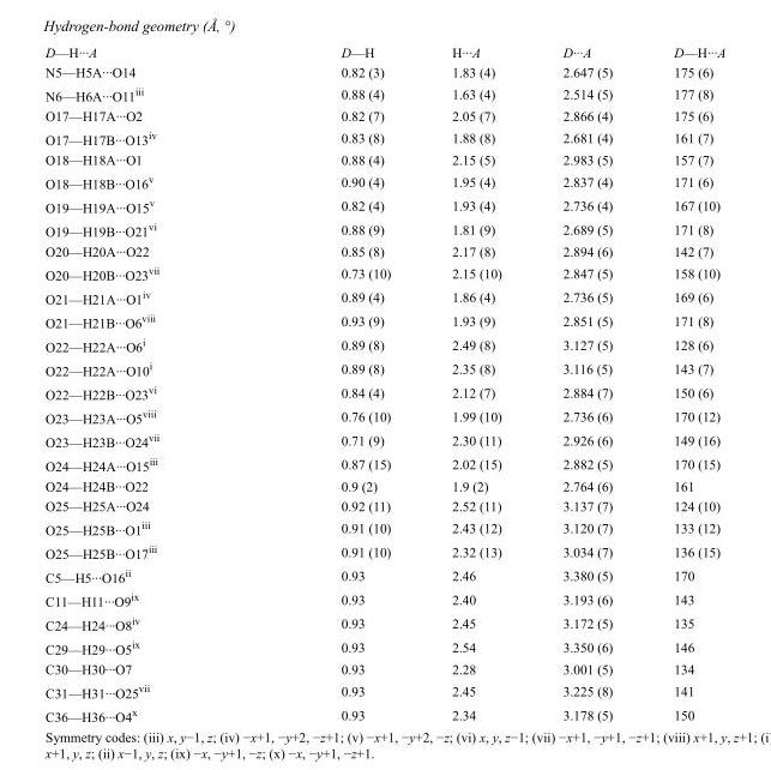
<table><tbody><tr><td>D—H···A</td><td>D—H</td><td>H···A</td><td>D···A</td><td>D—H···A</td></tr><tr><td>N5—H5A···O14</td><td>0.82 (3)</td><td>1.83 (4)</td><td>2.647 (5)</td><td>175 (6)</td></tr><tr><td>N6—H6A···O11<sup>iii</sup></td><td>0.88 (4)</td><td>1.63 (4)</td><td>2.514 (5)</td><td>177 (8)</td></tr><tr><td>O17—H17A···O2</td><td>0.82 (7)</td><td>2.05 (7)</td><td>2.866 (4)</td><td>175 (6)</td></tr><tr><td>O17—H17B···O13<sup>iv</sup></td><td>0.83 (8)</td><td>1.88 (8)</td><td>2.681 (4)</td><td>161 (7)</td></tr><tr><td>O18—H18A···O1</td><td>0.88 (4)</td><td>2.15 (5)</td><td>2.983 (5)</td><td>157 (7)</td></tr><tr><td>O18—H18B···O16<sup>v</sup></td><td>0.90 (4)</td><td>1.95 (4)</td><td>2.837 (4)</td><td>171 (6)</td></tr><tr><td>O19—H19A···O15<sup>v</sup></td><td>0.82 (4)</td><td>1.93 (4)</td><td>2.736 (4)</td><td>167 (10)</td></tr><tr><td>O19—H19B···O21<sup>vi</sup></td><td>0.88 (9)</td><td>1.81 (9)</td><td>2.689 (5)</td><td>171 (8)</td></tr><tr><td>O20—H20A···O22</td><td>0.85 (8)</td><td>2.17 (8)</td><td>2.894 (6)</td><td>142 (7)</td></tr><tr><td>O20—H20B···O23<sup>vii</sup></td><td>0.73 (10)</td><td>2.15 (10)</td><td>2.847 (5)</td><td>158 (10)</td></tr><tr><td>O21—H21A···O1<sup>iv</sup></td><td>0.89 (4)</td><td>1.86 (4)</td><td>2.736 (5)</td><td>169 (6)</td></tr><tr><td>O21—H21B···O6<sup>viii</sup></td><td>0.93 (9)</td><td>1.93 (9)</td><td>2.851 (5)</td><td>171 (8)</td></tr><tr><td>O22—H22A···O6<sup>i</sup></td><td>0.89 (8)</td><td>2.49 (8)</td><td>3.127 (5)</td><td>128 (6)</td></tr><tr><td>O22—H22A···O10<sup>i</sup></td><td>0.89 (8)</td><td>2.35 (8)</td><td>3.116 (5)</td><td>143 (7)</td></tr><tr><td>O22—H22B···O23<sup>vi</sup></td><td>0.84 (4)</td><td>2.12 (7)</td><td>2.884 (7)</td><td>150 (6)</td></tr><tr><td>O23—H23A···O5<sup>viii</sup></td><td>0.76 (10)</td><td>1.99 (10)</td><td>2.736 (6)</td><td>170 (12)</td></tr><tr><td>O23—H23B···O24<sup>vii</sup></td><td>0.71 (9)</td><td>2.30 (11)</td><td>2.926 (6)</td><td>149 (16)</td></tr><tr><td>O24—H24A···O15<sup>iii</sup></td><td>0.87 (15)</td><td>2.02 (15)</td><td>2.882 (5)</td><td>170 (15)</td></tr><tr><td>O24—H24B···O22</td><td>0.9 (2)</td><td>1.9 (2)</td><td>2.764 (6)</td><td>161</td></tr><tr><td>O25—H25A···O24</td><td>0.92 (11)</td><td>2.52 (11)</td><td>3.137 (7)</td><td>124 (10)</td></tr><tr><td>O25—H25B···O1<sup>iii</sup></td><td>0.91 (10)</td><td>2.43 (12)</td><td>3.120 (7)</td><td>133 (12)</td></tr><tr><td>O25—H25B···O17<sup>iii</sup></td><td>0.91 (10)</td><td>2.32 (13)</td><td>3.034 (7)</td><td>136 (15)</td></tr><tr><td>C5—H5···O16<sup>ii</sup></td><td>0.93</td><td>2.46</td><td>3.380 (5)</td><td>170</td></tr><tr><td>C11—H11···O9<sup>ix</sup></td><td>0.93</td><td>2.40</td><td>3.193 (6)</td><td>143</td></tr><tr><td>C24—H24···O8<sup>iv</sup></td><td>0.93</td><td>2.45</td><td>3.172 (5)</td><td>135</td></tr><tr><td>C29—H29···O5<sup>ix</sup></td><td>0.93</td><td>2.54</td><td>3.350 (6)</td><td>146</td></tr><tr><td>C30—H30···O7</td><td>0.93</td><td>2.28</td><td>3.001 (5)</td><td>134</td></tr><tr><td>C31—H31···O25<sup>vii</sup></td><td>0.93</td><td>2.45</td><td>3.225 (8)</td><td>141</td></tr><tr><td>C36—H36···O4<sup>x</sup></td><td>0.93</td><td>2.34</td><td>3.178 (5)</td><td>150</td></tr></tbody></table>